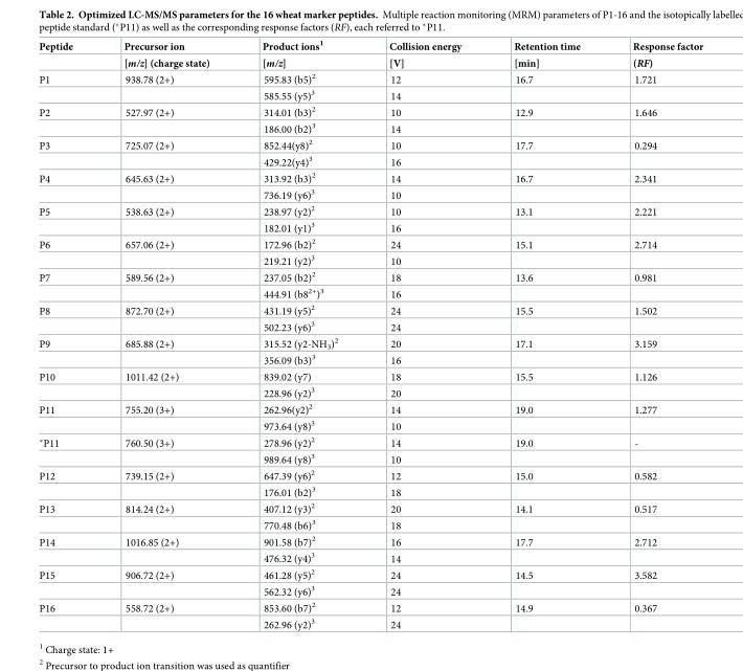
<table><thead><tr><td rowspan="2">Peptide</td><td rowspan="2">Precursor ion [m/z] (charge state)</td><td rowspan="2">Product ions<sup>1</sup> [m/z]</td><td rowspan="2">Collision energy [V]</td><td rowspan="2">Retention time [min]</td><td rowspan="2">Response factor (RF)</td></tr><tr></tr></thead><tbody><tr><td rowspan="2">P1</td><td>938.78 (2+)</td><td>595.83 (b5)<sup>2</sup></td><td>12</td><td>16.7</td><td>1.721</td></tr><tr><td></td><td>585.55 (y5)<sup>3</sup></td><td>14</td><td></td><td></td></tr><tr><td rowspan="2">P2</td><td>527.97 (2+)</td><td>314.01 (b3)<sup>2</sup></td><td>10</td><td>12.9</td><td>1.646</td></tr><tr><td></td><td>186.00 (b2)<sup>3</sup></td><td>14</td><td></td><td></td></tr><tr><td rowspan="2">P3</td><td>725.07 (2+)</td><td>852.44(y8)<sup>2</sup></td><td>10</td><td>17.7</td><td>0.294</td></tr><tr><td></td><td>429.22(y4)<sup>3</sup></td><td>16</td><td></td><td></td></tr><tr><td rowspan="2">P4</td><td>645.63 (2+)</td><td>313.92 (b3)<sup>2</sup></td><td>14</td><td>16.7</td><td>2.341</td></tr><tr><td></td><td>736.19 (y6)<sup>3</sup></td><td>10</td><td></td><td></td></tr><tr><td rowspan="2">P5</td><td>538.63 (2+)</td><td>238.97 (y2)<sup>2</sup></td><td>10</td><td>13.1</td><td>2.221</td></tr><tr><td></td><td>182.01 (y1)<sup>3</sup></td><td>16</td><td></td><td></td></tr><tr><td rowspan="2">P6</td><td>657.06 (2+)</td><td>172.96 (b2)<sup>2</sup></td><td>24</td><td>15.1</td><td>2.714</td></tr><tr><td></td><td>219.21 (y2)<sup>3</sup></td><td>10</td><td></td><td></td></tr><tr><td rowspan="2">P7</td><td>589.56 (2+)</td><td>237.05 (b2)<sup>2</sup></td><td>18</td><td>13.6</td><td>0.981</td></tr><tr><td></td><td>444.91 (b8<sup>2+</sup>)<sup>3</sup></td><td>16</td><td></td><td></td></tr><tr><td rowspan="2">P8</td><td>872.70 (2+)</td><td>431.19 (y5)<sup>2</sup></td><td>24</td><td>15.5</td><td>1.502</td></tr><tr><td></td><td>502.23 (y6)<sup>3</sup></td><td>24</td><td></td><td></td></tr><tr><td rowspan="2">P9</td><td>685.88 (2+)</td><td>315.52 (y2-NH<sub>3</sub>)<sup>2</sup></td><td>20</td><td>17.1</td><td>3.159</td></tr><tr><td></td><td>356.09 (b3)<sup>3</sup></td><td>16</td><td></td><td></td></tr><tr><td rowspan="2">P10</td><td>1011.42 (2+)</td><td>839.02 (y7)</td><td>18</td><td>15.5</td><td>1.126</td></tr><tr><td></td><td>228.96 (y2)<sup>3</sup></td><td>20</td><td></td><td></td></tr><tr><td rowspan="2">P11</td><td>755.20 (3+)</td><td>262.96(y2)<sup>2</sup></td><td>14</td><td>19.0</td><td>1.277</td></tr><tr><td></td><td>973.64 (y8)<sup>3</sup></td><td>10</td><td></td><td></td></tr><tr><td rowspan="2">*P11</td><td>760.50 (3+)</td><td>278.96 (y2)<sup>2</sup></td><td>14</td><td>19.0</td><td>-</td></tr><tr><td></td><td>989.64 (y8)<sup>3</sup></td><td>10</td><td></td><td></td></tr><tr><td rowspan="2">P12</td><td>739.15 (2+)</td><td>647.39 (y6)<sup>2</sup></td><td>12</td><td>15.0</td><td>0.582</td></tr><tr><td></td><td>176.01 (b2)<sup>3</sup></td><td>18</td><td></td><td></td></tr><tr><td rowspan="2">P13</td><td>814.24 (2+)</td><td>407.12 (y3)<sup>2</sup></td><td>20</td><td>14.1</td><td>0.517</td></tr><tr><td></td><td>770.48 (b6)<sup>3</sup></td><td>18</td><td></td><td></td></tr><tr><td rowspan="2">P14</td><td>1016.85 (2+)</td><td>901.58 (b7)<sup>2</sup></td><td>16</td><td>17.7</td><td>2.712</td></tr><tr><td></td><td>476.32 (y4)<sup>3</sup></td><td>14</td><td></td><td></td></tr><tr><td rowspan="2">P15</td><td>906.72 (2+)</td><td>461.28 (y5)<sup>2</sup></td><td>24</td><td>14.5</td><td>3.582</td></tr><tr><td></td><td>562.32 (y6)<sup>3</sup></td><td>24</td><td></td><td></td></tr><tr><td rowspan="2">P16</td><td>558.72 (2+)</td><td>853.60 (b7)<sup>2</sup></td><td>12</td><td>14.9</td><td>0.367</td></tr><tr><td></td><td>262.96 (y2)<sup>3</sup></td><td>24</td><td></td><td></td></tr></tbody></table>